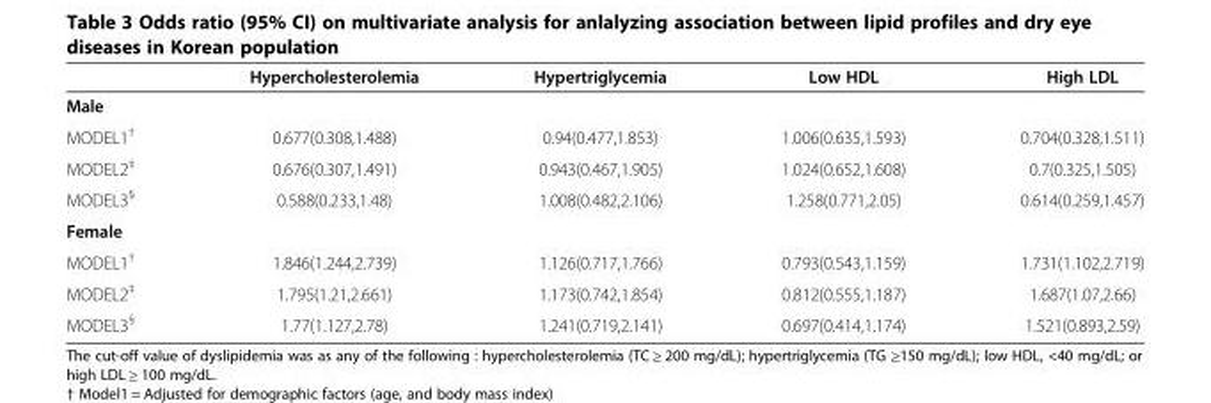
<table><thead><tr><td></td><td>Hypercholesterolemia</td><td>Hypertriglycemia</td><td>Low HDL</td><td>High LDL</td></tr></thead><tbody><tr><td colspan="5">Male</td></tr><tr><td>MODEL1<sup>†</sup></td><td>0.677(0.308,1.488)</td><td>0.94(0.477,1.853)</td><td>1.006(0.635,1.593)</td><td>0.704(0.328,1.511)</td></tr><tr><td>MODEL2<sup>‡</sup></td><td>0.676(0.307,1.491)</td><td>0.943(0.467,1.905)</td><td>1.024(0.652,1.608)</td><td>0.7(0.325,1.505)</td></tr><tr><td>MODEL3<sup>§</sup></td><td>0.588(0.233,1.48)</td><td>1.008(0.482,2.106)</td><td>1.258(0.771,2.05)</td><td>0.614(0.259,1.457)</td></tr><tr><td colspan="5">Female</td></tr><tr><td>MODEL1<sup>†</sup></td><td>1.846(1.244,2.739)</td><td>1.126(0.717,1.766)</td><td>0.793(0.543,1.159)</td><td>1.731(1.102,2.719)</td></tr><tr><td>MODEL2<sup>‡</sup></td><td>1.795(1.21,2.661)</td><td>1.173(0.742,1.854)</td><td>0.812(0.555,1.187)</td><td>1.687(1.07,2.66)</td></tr><tr><td>MODEL3<sup>§</sup></td><td>1.77(1.127,2.78)</td><td>1.241(0.719,2.141)</td><td>0.697(0.414,1.174)</td><td>1.521(0.893,2.59)</td></tr></tbody></table>